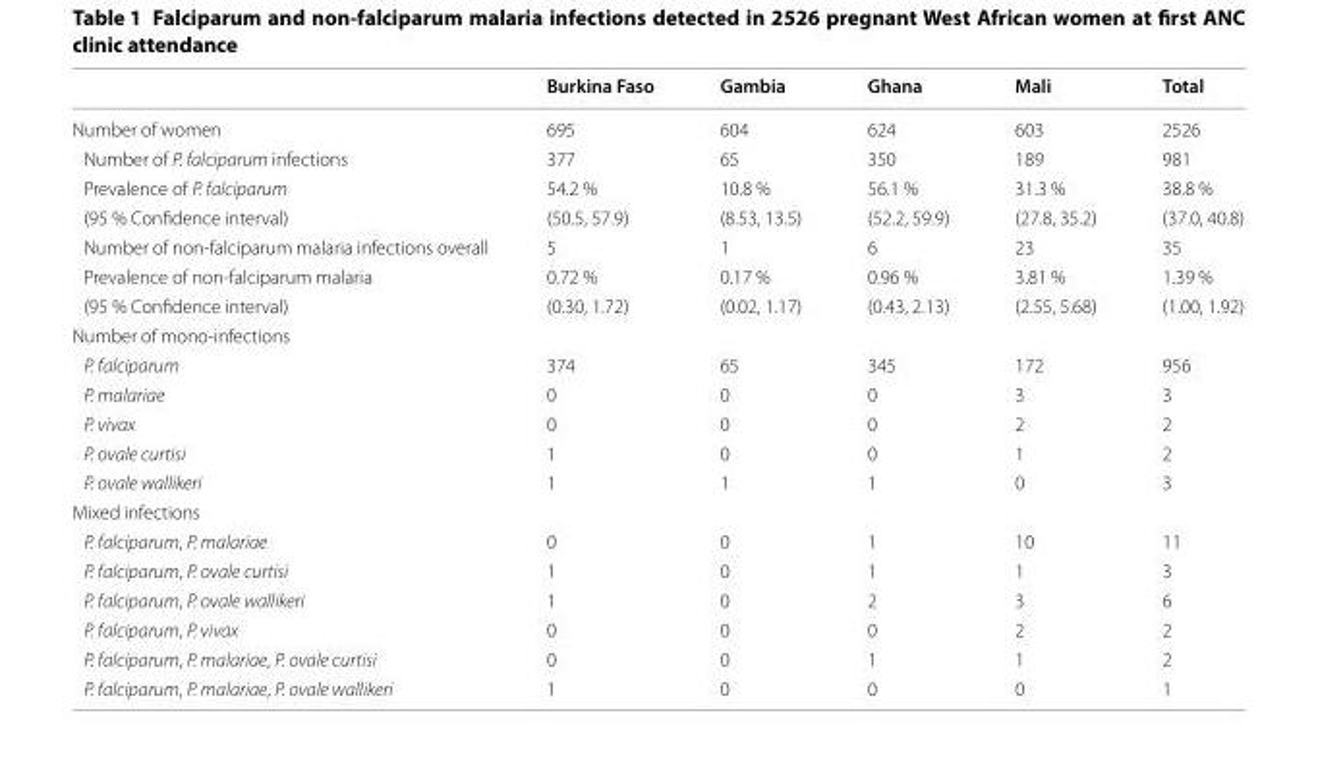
<table><thead><tr><td></td><td>Burkina Faso</td><td>Gambia</td><td>Ghana</td><td>Mali</td><td>Total</td></tr></thead><tbody><tr><td>Number of women</td><td>695</td><td>604</td><td>624</td><td>603</td><td>2526</td></tr><tr><td>Number of P. falciparum infections</td><td>377</td><td>65</td><td>350</td><td>189</td><td>981</td></tr><tr><td>Prevalence of P. falciparum</td><td>54.2 %</td><td>10.8 %</td><td>56.1 %</td><td>31.3 %</td><td>38.8 %</td></tr><tr><td>(95 % Confidence interval)</td><td>(50.5, 57.9)</td><td>(8.53, 13.5)</td><td>(52.2, 59.9)</td><td>(27.8, 35.2)</td><td>(37.0, 40.8)</td></tr><tr><td>Number of non-falciparum malaria infections overall</td><td>5</td><td>1</td><td>6</td><td>23</td><td>35</td></tr><tr><td>Prevalence of non-falciparum malaria</td><td>0.72 %</td><td>0.17 %</td><td>0.96 %</td><td>3.81 %</td><td>1.39 %</td></tr><tr><td>(95 % Confidence interval)</td><td>(0.30, 1.72)</td><td>(0.02, 1.17)</td><td>(0.43, 2.13)</td><td>(2.55, 5.68)</td><td>(1.00, 1.92)</td></tr><tr><td colspan="6">Number of mono-infections</td></tr><tr><td>P. falciparum</td><td>374</td><td>65</td><td>345</td><td>172</td><td>956</td></tr><tr><td>P. malariae</td><td>0</td><td>0</td><td>0</td><td>3</td><td>3</td></tr><tr><td>P. vivax</td><td>0</td><td>0</td><td>0</td><td>2</td><td>2</td></tr><tr><td>P. ovale curtisi</td><td>1</td><td>0</td><td>0</td><td>1</td><td>2</td></tr><tr><td>P. ovale wallikeri</td><td>1</td><td>1</td><td>1</td><td>0</td><td>3</td></tr><tr><td colspan="6">Mixed infections</td></tr><tr><td>P. falciparum, P. malariae</td><td>0</td><td>0</td><td>1</td><td>10</td><td>11</td></tr><tr><td>P. falciparum, P. ovale curtisi</td><td>1</td><td>0</td><td>1</td><td>1</td><td>3</td></tr><tr><td>P. falciparum, P. ovale wallikeri</td><td>1</td><td>0</td><td>2</td><td>3</td><td>6</td></tr><tr><td>P. falciparum, P. vivax</td><td>0</td><td>0</td><td>0</td><td>2</td><td>2</td></tr><tr><td>P. falciparum, P. malariae, P. ovale curtisi</td><td>0</td><td>0</td><td>1</td><td>1</td><td>2</td></tr><tr><td>P. falciparum, P. malariae, P. ovale wallikeri</td><td>1</td><td>0</td><td>0</td><td>0</td><td>1</td></tr></tbody></table>